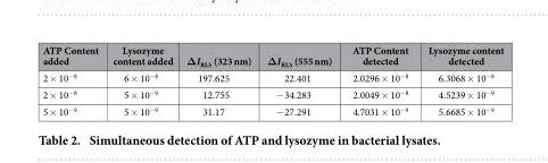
<table><thead><tr><td>ATP Content added</td><td>Lysozyme content added</td><td>ΔI<sub>RLS</sub> (323 nm)</td><td>ΔI<sub>RLS</sub> (555 nm)</td><td>ATP Content detected</td><td>Lysozyme content detected</td></tr></thead><tbody><tr><td>2 × 10<sup>−8</sup></td><td>6 × 10<sup>−8</sup></td><td>197.625</td><td>22.401</td><td>2.0296 × 10<sup>−8</sup></td><td>6.3068 × 10<sup>−8</sup></td></tr><tr><td>2 × 10<sup>−8</sup></td><td>5 × 10<sup>−9</sup></td><td>12.755</td><td>− 34.283</td><td>2.0049 × 10<sup>−8</sup></td><td>4.5239 × 10<sup>−9</sup></td></tr><tr><td>5 × 10<sup>−9</sup></td><td>5 × 10<sup>−9</sup></td><td>31.17</td><td>− 27.291</td><td>4.7031 × 10<sup>−9</sup></td><td>5.6685 × 10<sup>−9</sup></td></tr></tbody></table>